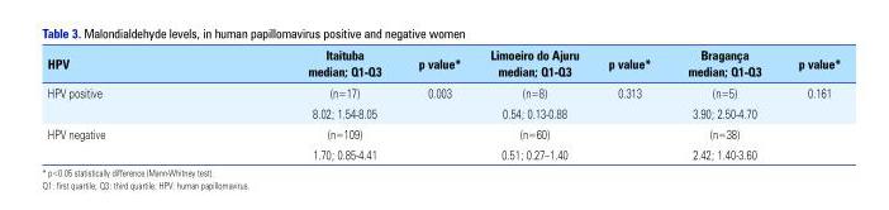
<table><thead><tr><td rowspan="2">HPV</td><td rowspan="2">Itaituba median; Q1-Q3</td><td rowspan="2">p value*</td><td rowspan="2">Limoeiro do Ajuru median; Q1-Q3</td><td rowspan="2">p value*</td><td rowspan="2">Bragança median; Q1-Q3</td><td rowspan="2">p value*</td></tr><tr></tr></thead><tbody><tr><td rowspan="2">HPV positive</td><td>(n=17)</td><td>0.003</td><td>(n=8)</td><td>0.313</td><td>(n=5)</td><td>0.161</td></tr><tr><td>8.02; 1.54-8.05</td><td></td><td>0.54; 0.13-0.88</td><td></td><td>3.90; 2.50-4.70</td><td></td></tr><tr><td rowspan="2">HPV negative</td><td>(n=109)</td><td></td><td>(n=60)</td><td></td><td>(n=38)</td><td></td></tr><tr><td>1.70; 0.85-4.41</td><td></td><td>0.51; 0.27–1.40</td><td></td><td>2.42; 1.40-3.60</td><td></td></tr></tbody></table>